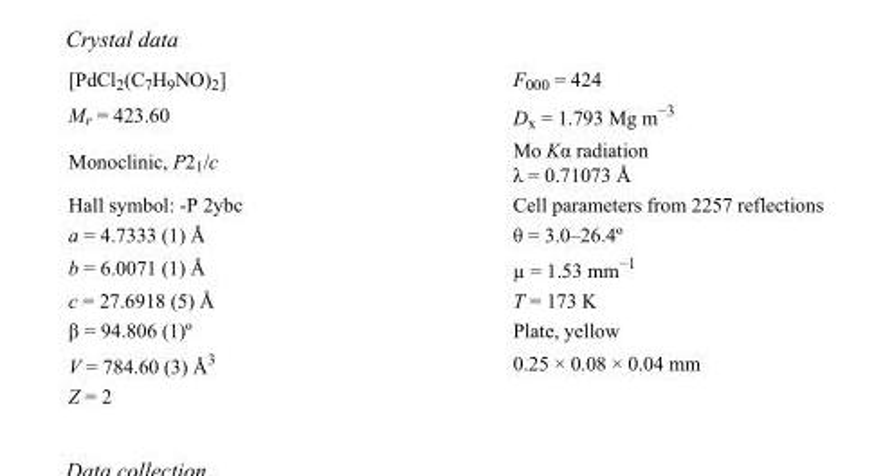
<table><tbody><tr><td>[PdCl<sub>2</sub>(C<sub>7</sub>H<sub>9</sub>NO)<sub>2</sub>]</td><td>F000 = 424</td></tr><tr><td>M<sub>r</sub> = 423.60</td><td>D<sub>x</sub> = 1.793 Mg m<sup>−3</sup></td></tr><tr><td>Monoclinic, P2<sub>1</sub>/c</td><td>Mo Kα radiation λ = 0.71073 Å</td></tr><tr><td>Hall symbol: -P 2ybc</td><td>Cell parameters from 2257 reflections</td></tr><tr><td>a = 4.7333 (1) Å</td><td>θ = 3.0–26.4º</td></tr><tr><td>b = 6.0071 (1) Å</td><td>µ = 1.53 mm<sup>−1</sup></td></tr><tr><td>c = 27.6918 (5) Å</td><td>T = 173 K</td></tr><tr><td>β = 94.806 (1)º</td><td>Plate, yellow</td></tr><tr><td>V = 784.60 (3) Å<sup>3</sup></td><td>0.25 × 0.08 × 0.04 mm</td></tr><tr><td>Z = 2</td><td></td></tr></tbody></table>